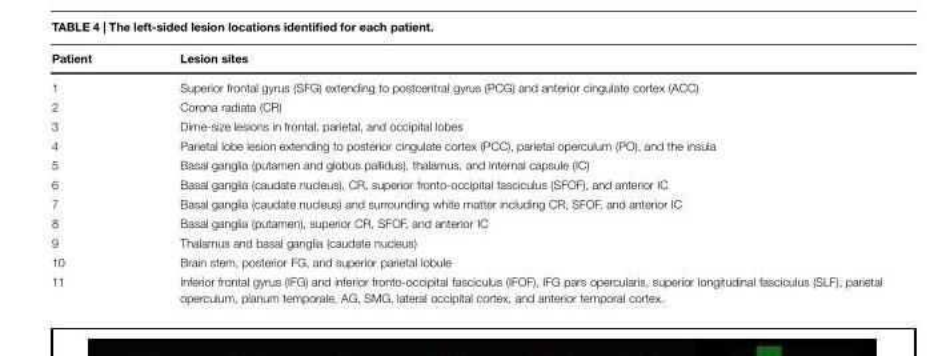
<table><thead><tr><td>Patient</td><td>Lesion sites</td></tr></thead><tbody><tr><td>1</td><td>Superior frontal gyrus (SFG) extending to postcentral gyrus (PCG) and anterior cingulate cortex (ACC)</td></tr><tr><td>2</td><td>Corona radiata (CR)</td></tr><tr><td>3</td><td>Dime-size lesions in frontal, parietal, and occipital lobes</td></tr><tr><td>4</td><td>Parietal lobe lesion extending to posterior cingulate cortex (PCC), parietal operculum (PO), and the insula</td></tr><tr><td>5</td><td>Basal ganglia (putamen and globus pallidus), thalamus, and internal capsule (IC)</td></tr><tr><td>6</td><td>Basal ganglia (caudate nucleus), CR, superior fronto-occipital fasciculus (SFOF), and anterior IC</td></tr><tr><td>7</td><td>Basal ganglia (caudate nucleus) and surrounding white matter including CR, SFOF, and anterior IC</td></tr><tr><td>8</td><td>Basal ganglia (putamen), superior CR, SFOF, and anterior IC</td></tr><tr><td>9</td><td>Thalamus and basal ganglia (caudate nucleus)</td></tr><tr><td>10</td><td>Brain stem, posterior FG, and superior parietal lobule</td></tr><tr><td>11</td><td>Inferior frontal gyrus (IFG) and inferior fronto-occipital fasciculus (IFOF), IFG pars opercularis, superior longitudinal fasciculus (SLF), parietal operculum, planum temporale, AG, SMG, lateral occipital cortex, and anterior temporal cortex.</td></tr></tbody></table>